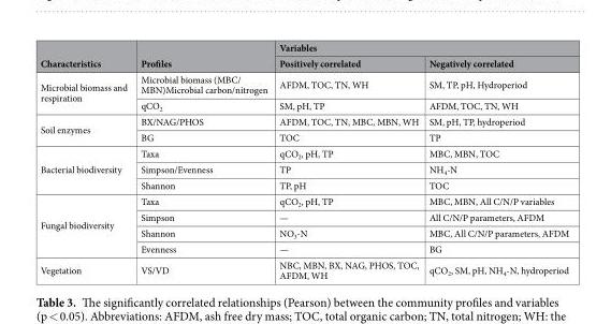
<table><thead><tr><td rowspan="2">Characteristics</td><td rowspan="2">Profiles</td><td colspan="2">Variables</td></tr><tr><td>Positively correlated</td><td>Negatively correlated</td></tr></thead><tbody><tr><td rowspan="2">Microbial biomass and respiration</td><td>Microbial biomass (MBC/ MBN)Microbial carbon/nitrogen</td><td>AFDM, TOC, TN, WH</td><td>SM, TP, pH, Hydroperiod</td></tr><tr><td>qCO<sub>2</sub></td><td>SM, pH, TP</td><td>AFDM, TOC, TN, WH</td></tr><tr><td rowspan="2">Soil enzymes</td><td>BX/NAG/PHOS</td><td>AFDM, TOC, TN, MBC, MBN, WH</td><td>SM, pH, TP, hydroperiod</td></tr><tr><td>BG</td><td>TOC</td><td>TP</td></tr><tr><td rowspan="3">Bacterial biodiversity</td><td>Taxa</td><td>qCO<sub>2</sub>, pH, TP</td><td>MBC, MBN, TOC</td></tr><tr><td>Simpson/Evenness</td><td>TP</td><td>NH<sub>4</sub>-N</td></tr><tr><td>Shannon</td><td>TP, pH</td><td>TOC</td></tr><tr><td rowspan="4">Fungal biodiversity</td><td>Taxa</td><td>qCO<sub>2</sub>, pH, TP</td><td>MBC, MBN, All C/N/P variables</td></tr><tr><td>Simpson</td><td>—</td><td>All C/N/P parameters, AFDM</td></tr><tr><td>Shannon</td><td>NO<sub>3</sub>-N</td><td>MBC, All C/N/P parameters, AFDM</td></tr><tr><td>Evenness</td><td>—</td><td>BG</td></tr><tr><td>Vegetation</td><td>VS/VD</td><td>NBC, MBN, BX, NAG, PHOS, TOC, AFDM, WH</td><td>qCO<sub>2</sub>, SM, pH, NH<sub>4</sub>-N, hydroperiod</td></tr></tbody></table>